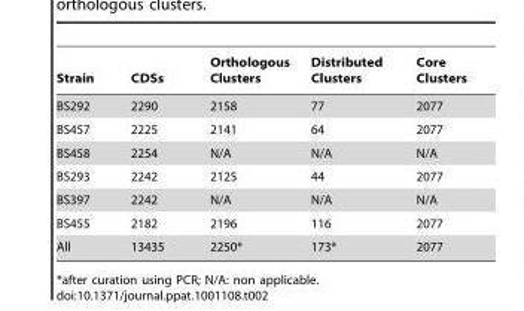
<table><thead><tr><td>Strain</td><td>CDSs</td><td>Orthologous Clusters</td><td>Distributed Clusters</td><td>Core Clusters</td></tr></thead><tbody><tr><td>BS292</td><td>2290</td><td>2158</td><td>77</td><td>2077</td></tr><tr><td>BS457</td><td>2225</td><td>2141</td><td>64</td><td>2077</td></tr><tr><td>BS458</td><td>2254</td><td>N/A</td><td>N/A</td><td>N/A</td></tr><tr><td>BS293</td><td>2242</td><td>2125</td><td>44</td><td>2077</td></tr><tr><td>BS397</td><td>2242</td><td>N/A</td><td>N/A</td><td>N/A</td></tr><tr><td>BS455</td><td>2182</td><td>2196</td><td>116</td><td>2077</td></tr><tr><td>All</td><td>13435</td><td>2250*</td><td>173*</td><td>2077</td></tr></tbody></table>